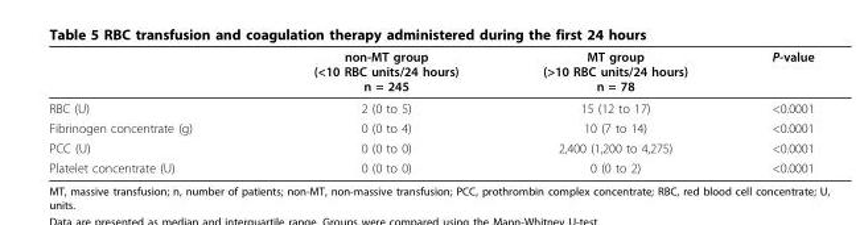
<table><thead><tr><td></td><td>non-MT group (&lt;10 RBC units/24 hours) n = 245</td><td>MT group (&gt;10 RBC units/24 hours) n = 78</td><td>P-value</td></tr></thead><tbody><tr><td>RBC (U)</td><td>2 (0 to 5)</td><td>15 (12 to 17)</td><td>&lt;0.0001</td></tr><tr><td>Fibrinogen concentrate (g)</td><td>0 (0 to 4)</td><td>10 (7 to 14)</td><td>&lt;0.0001</td></tr><tr><td>PCC (U)</td><td>0 (0 to 0)</td><td>2,400 (1,200 to 4,275)</td><td>&lt;0.0001</td></tr><tr><td>Platelet concentrate (U)</td><td>0 (0 to 0)</td><td>0 (0 to 2)</td><td>&lt;0.0001</td></tr></tbody></table>